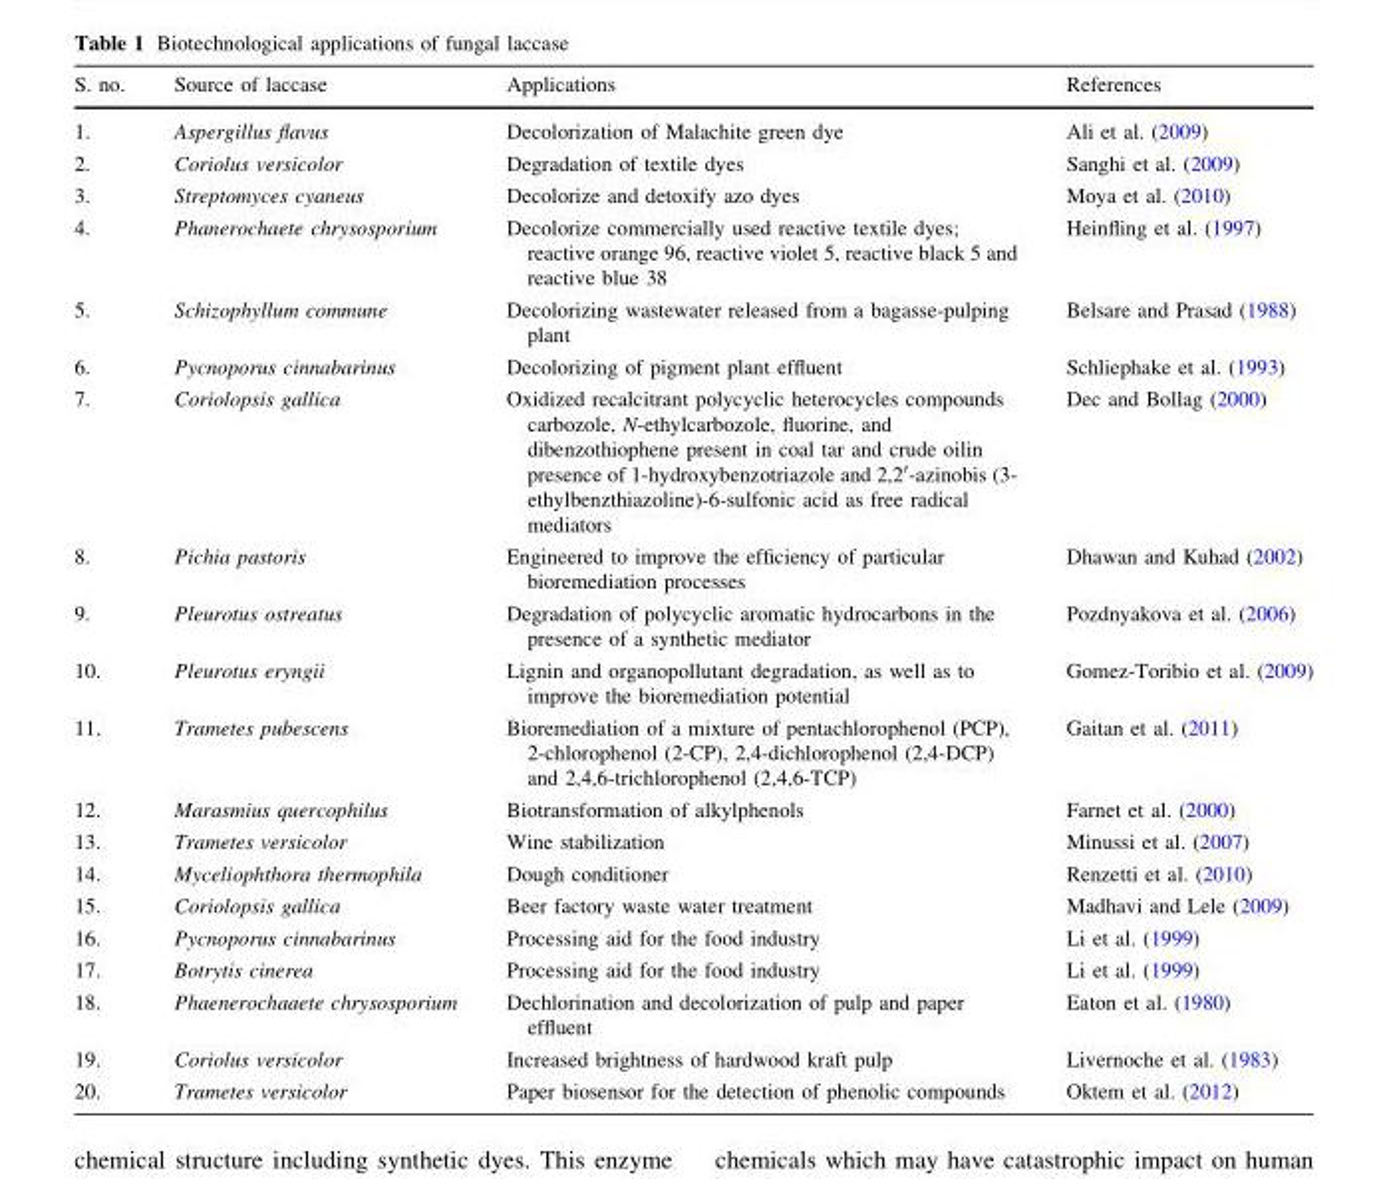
<table><thead><tr><td>S. no.</td><td>Source of laccase</td><td>Applications</td><td>References</td></tr></thead><tbody><tr><td>1.</td><td>Aspergillus flavus</td><td>Decolorization of Malachite green dye</td><td>Ali et al. (2009)</td></tr><tr><td>2.</td><td>Coriolus versicolor</td><td>Degradation of textile dyes</td><td>Sanghi et al. (2009)</td></tr><tr><td>3.</td><td>Streptomyces cyaneus</td><td>Decolorize and detoxify azo dyes</td><td>Moya et al. (2010)</td></tr><tr><td>4.</td><td>Phanerochaete chrysosporium</td><td>Decolorize commercially used reactive textile dyes; reactive orange 96, reactive violet 5, reactive black 5 and reactive blue 38</td><td>Heinfling et al. (1997)</td></tr><tr><td>5.</td><td>Schizophyllum commune</td><td>Decolorizing wastewater released from a bagasse-pulping plant</td><td>Belsare and Prasad (1988)</td></tr><tr><td>6.</td><td>Pycnoporus cinnabarinus</td><td>Decolorizing of pigment plant effluent</td><td>Schliephake et al. (1993)</td></tr><tr><td>7.</td><td>Coriolopsis gallica</td><td>Oxidized recalcitrant polycyclic heterocycles compounds carbozole, N-ethylcarbozole, fluorine, and dibenzothiophene present in coal tar and crude oilin presence of 1-hydroxybenzotriazole and 2,2′-azinobis (3- ethylbenzthiazoline)-6-sulfonic acid as free radical mediators</td><td>Dec and Bollag (2000)</td></tr><tr><td>8.</td><td>Pichia pastoris</td><td>Engineered to improve the efficiency of particular bioremediation processes</td><td>Dhawan and Kuhad (2002)</td></tr><tr><td>9.</td><td>Pleurotus ostreatus</td><td>Degradation of polycyclic aromatic hydrocarbons in the presence of a synthetic mediator</td><td>Pozdnyakova et al. (2006)</td></tr><tr><td>10.</td><td>Pleurotus eryngii</td><td>Lignin and organopollutant degradation, as well as to improve the bioremediation potential</td><td>Gomez-Toribio et al. (2009)</td></tr><tr><td>11.</td><td>Trametes pubescens</td><td>Bioremediation of a mixture of pentachlorophenol (PCP), 2-chlorophenol (2-CP), 2,4-dichlorophenol (2,4-DCP) and 2,4,6-trichlorophenol (2,4,6-TCP)</td><td>Gaitan et al. (2011)</td></tr><tr><td>12.</td><td>Marasmius quercophilus</td><td>Biotransformation of alkylphenols</td><td>Farnet et al. (2000)</td></tr><tr><td>13.</td><td>Trametes versicolor</td><td>Wine stabilization</td><td>Minussi et al. (2007)</td></tr><tr><td>14.</td><td>Myceliophthora thermophila</td><td>Dough conditioner</td><td>Renzetti et al. (2010)</td></tr><tr><td>15.</td><td>Coriolopsis gallica</td><td>Beer factory waste water treatment</td><td>Madhavi and Lele (2009)</td></tr><tr><td>16.</td><td>Pycnoporus cinnabarinus</td><td>Processing aid for the food industry</td><td>Li et al. (1999)</td></tr><tr><td>17.</td><td>Botrytis cinerea</td><td>Processing aid for the food industry</td><td>Li et al. (1999)</td></tr><tr><td>18.</td><td>Phaenerochaaete chrysosporium</td><td>Dechlorination and decolorization of pulp and paper effluent</td><td>Eaton et al. (1980)</td></tr><tr><td>19.</td><td>Coriolus versicolor</td><td>Increased brightness of hardwood kraft pulp</td><td>Livernoche et al. (1983)</td></tr><tr><td>20.</td><td>Trametes versicolor</td><td>Paper biosensor for the detection of phenolic compounds</td><td>Oktem et al. (2012)</td></tr></tbody></table>